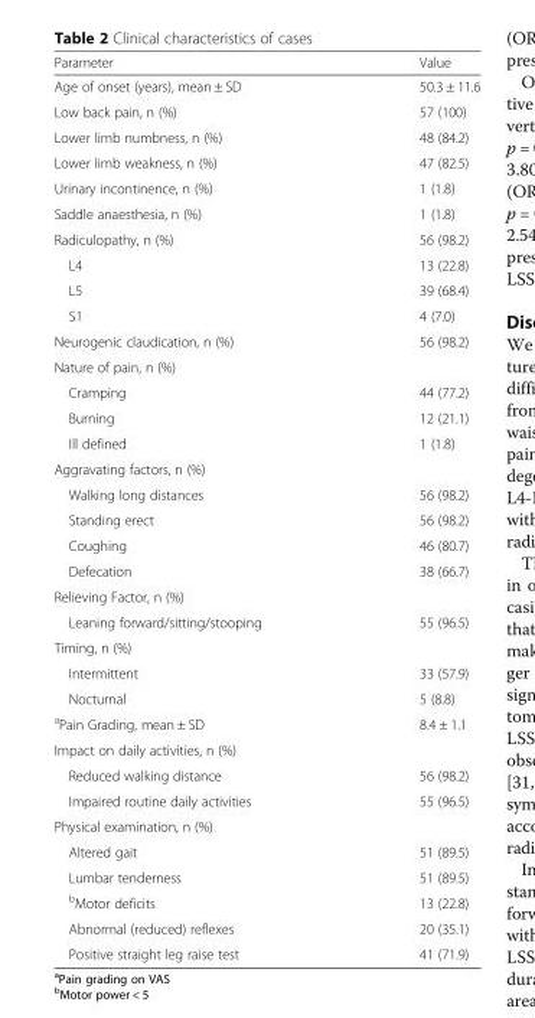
<table><thead><tr><td>Parameter</td><td>Value</td></tr></thead><tbody><tr><td>Age of onset (years), mean ± SD</td><td>50.3 ± 11.6</td></tr><tr><td>Low back pain, n (%)</td><td>57 (100)</td></tr><tr><td>Lower limb numbness, n (%)</td><td>48 (84.2)</td></tr><tr><td>Lower limb weakness, n (%)</td><td>47 (82.5)</td></tr><tr><td>Urinary incontinence, n (%)</td><td>1 (1.8)</td></tr><tr><td>Saddle anaesthesia, n (%)</td><td>1 (1.8)</td></tr><tr><td>Radiculopathy, n (%)</td><td>56 (98.2)</td></tr><tr><td>L4</td><td>13 (22.8)</td></tr><tr><td>L5</td><td>39 (68.4)</td></tr><tr><td>S1</td><td>4 (7.0)</td></tr><tr><td>Neurogenic claudication, n (%)</td><td>56 (98.2)</td></tr><tr><td colspan="2">Nature of pain, n (%)</td></tr><tr><td>Cramping</td><td>44 (77.2)</td></tr><tr><td>Burning</td><td>12 (21.1)</td></tr><tr><td>Ill defined</td><td>1 (1.8)</td></tr><tr><td colspan="2">Aggravating factors, n (%)</td></tr><tr><td>Walking long distances</td><td>56 (98.2)</td></tr><tr><td>Standing erect</td><td>56 (98.2)</td></tr><tr><td>Coughing</td><td>46 (80.7)</td></tr><tr><td>Defecation</td><td>38 (66.7)</td></tr><tr><td colspan="2">Relieving Factor, n (%)</td></tr><tr><td>Leaning forward/sitting/stooping</td><td>55 (96.5)</td></tr><tr><td colspan="2">Timing, n (%)</td></tr><tr><td>Intermittent</td><td>33 (57.9)</td></tr><tr><td>Nocturnal</td><td>5 (8.8)</td></tr><tr><td><sup>a</sup>Pain Grading, mean ± SD</td><td>8.4 ± 1.1</td></tr><tr><td colspan="2">Impact on daily activities, n (%)</td></tr><tr><td>Reduced walking distance</td><td>56 (98.2)</td></tr><tr><td>Impaired routine daily activities</td><td>55 (96.5)</td></tr><tr><td colspan="2">Physical examination, n (%)</td></tr><tr><td>Altered gait</td><td>51 (89.5)</td></tr><tr><td>Lumbar tenderness</td><td>51 (89.5)</td></tr><tr><td><sup>b</sup>Motor deficits</td><td>13 (22.8)</td></tr><tr><td>Abnormal (reduced) reflexes</td><td>20 (35.1)</td></tr><tr><td>Positive straight leg raise test</td><td>41 (71.9)</td></tr></tbody></table>